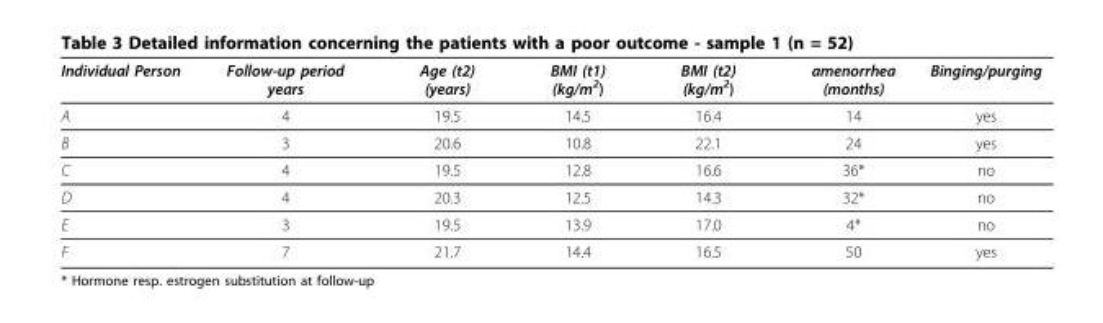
<table><thead><tr><td>Individual Person</td><td>Follow-up period years</td><td>Age (t2) (years)</td><td>BMI (t1) (kg/m<sup>2</sup>)</td><td>BMI (t2) (kg/m<sup>2</sup>)</td><td>amenorrhea (months)</td><td>Binging/purging</td></tr></thead><tbody><tr><td>A</td><td>4</td><td>19.5</td><td>14.5</td><td>16.4</td><td>14</td><td>yes</td></tr><tr><td>B</td><td>3</td><td>20.6</td><td>10.8</td><td>22.1</td><td>24</td><td>yes</td></tr><tr><td>C</td><td>4</td><td>19.5</td><td>12.8</td><td>16.6</td><td>36*</td><td>no</td></tr><tr><td>D</td><td>4</td><td>20.3</td><td>12.5</td><td>14.3</td><td>32*</td><td>no</td></tr><tr><td>E</td><td>3</td><td>19.5</td><td>13.9</td><td>17.0</td><td>4*</td><td>no</td></tr><tr><td>F</td><td>7</td><td>21.7</td><td>14.4</td><td>16.5</td><td>50</td><td>yes</td></tr></tbody></table>